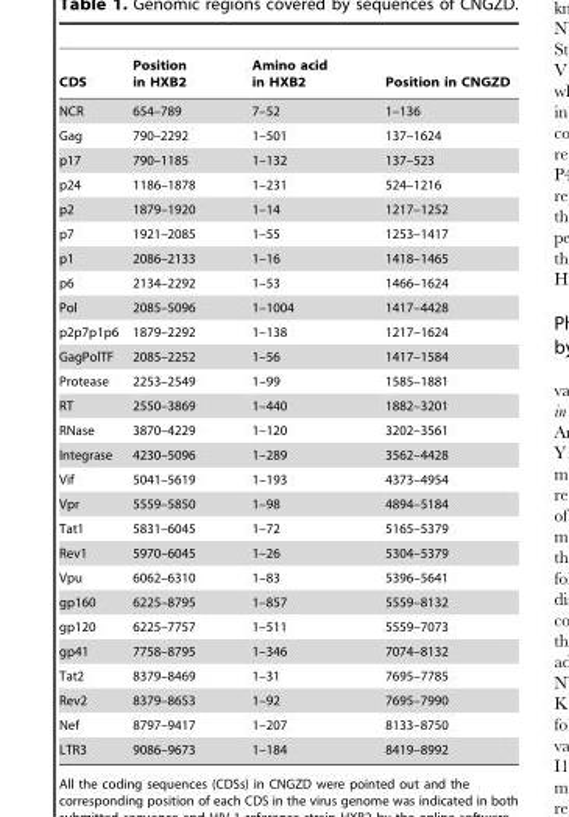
<table><thead><tr><td>CDS</td><td>Position in HXB2</td><td>Amino acid in HXB2</td><td>Position in CNGZD</td></tr></thead><tbody><tr><td>NCR</td><td>654–789</td><td>7–52</td><td>1–136</td></tr><tr><td>Gag</td><td>790–2292</td><td>1–501</td><td>137–1624</td></tr><tr><td>p17</td><td>790–1185</td><td>1–132</td><td>137–523</td></tr><tr><td>p24</td><td>1186–1878</td><td>1–231</td><td>524–1216</td></tr><tr><td>p2</td><td>1879–1920</td><td>1–14</td><td>1217–1252</td></tr><tr><td>p7</td><td>1921–2085</td><td>1–55</td><td>1253–1417</td></tr><tr><td>p1</td><td>2086–2133</td><td>1–16</td><td>1418–1465</td></tr><tr><td>p6</td><td>2134–2292</td><td>1–53</td><td>1466–1624</td></tr><tr><td>Pol</td><td>2085–5096</td><td>1–1004</td><td>1417–4428</td></tr><tr><td>p2p7p1p6</td><td>1879–2292</td><td>1–138</td><td>1217–1624</td></tr><tr><td>GagPolTF</td><td>2085–2252</td><td>1–56</td><td>1417–1584</td></tr><tr><td>Protease</td><td>2253–2549</td><td>1–99</td><td>1585–1881</td></tr><tr><td>RT</td><td>2550–3869</td><td>1–440</td><td>1882–3201</td></tr><tr><td>RNase</td><td>3870–4229</td><td>1–120</td><td>3202–3561</td></tr><tr><td>Integrase</td><td>4230–5096</td><td>1–289</td><td>3562–4428</td></tr><tr><td>Vif</td><td>5041–5619</td><td>1–193</td><td>4373–4954</td></tr><tr><td>Vpr</td><td>5559–5850</td><td>1–98</td><td>4894–5184</td></tr><tr><td>Tat1</td><td>5831–6045</td><td>1–72</td><td>5165–5379</td></tr><tr><td>Rev1</td><td>5970–6045</td><td>1–26</td><td>5304–5379</td></tr><tr><td>Vpu</td><td>6062–6310</td><td>1–83</td><td>5396–5641</td></tr><tr><td>gp160</td><td>6225–8795</td><td>1–857</td><td>5559–8132</td></tr><tr><td>gp120</td><td>6225–7757</td><td>1–511</td><td>5559–7073</td></tr><tr><td>gp41</td><td>7758–8795</td><td>1–346</td><td>7074–8132</td></tr><tr><td>Tat2</td><td>8379–8469</td><td>1–31</td><td>7695–7785</td></tr><tr><td>Rev2</td><td>8379–8653</td><td>1–92</td><td>7695–7990</td></tr><tr><td>Nef</td><td>8797–9417</td><td>1–207</td><td>8133–8750</td></tr><tr><td>LTR3</td><td>9086–9673</td><td>1–184</td><td>8419–8992</td></tr></tbody></table>